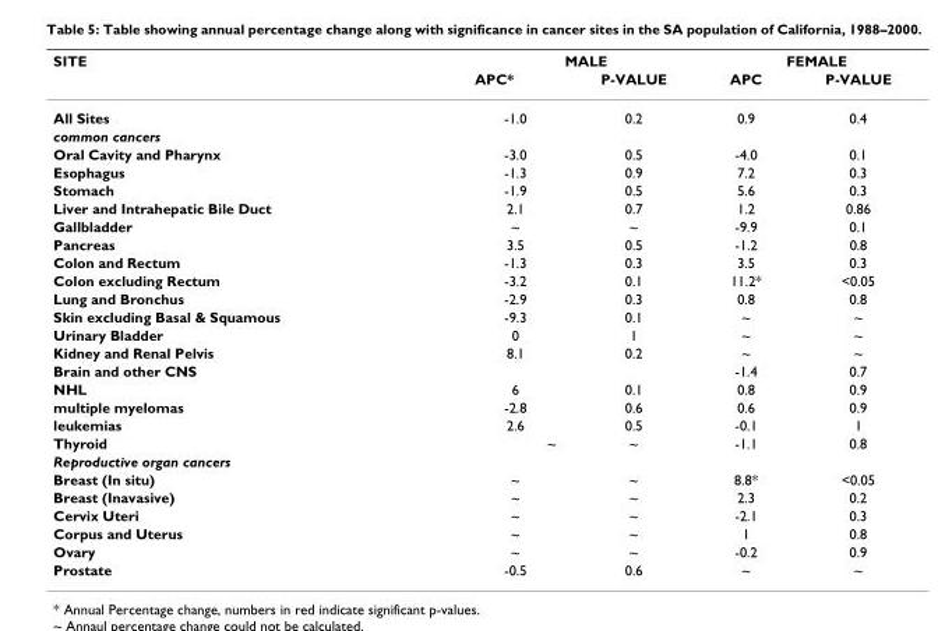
<table><thead><tr><td rowspan="2">SITE</td><td colspan="2">MALE</td><td colspan="2">FEMALE</td></tr><tr><td>APC*</td><td>P-VALUE</td><td>APC</td><td>P-VALUE</td></tr></thead><tbody><tr><td>All Sites</td><td>-1.0</td><td>0.2</td><td>0.9</td><td>0.4</td></tr><tr><td colspan="5">common cancers</td></tr><tr><td>Oral Cavity and Pharynx</td><td>-3.0</td><td>0.5</td><td>-4.0</td><td>0.1</td></tr><tr><td>Esophagus</td><td>-1.3</td><td>0.9</td><td>7.2</td><td>0.3</td></tr><tr><td>Stomach</td><td>-1.9</td><td>0.5</td><td>5.6</td><td>0.3</td></tr><tr><td>Liver and Intrahepatic Bile Duct</td><td>2.1</td><td>0.7</td><td>1.2</td><td>0.86</td></tr><tr><td>Gallbladder</td><td>~</td><td>~</td><td>-9.9</td><td>0.1</td></tr><tr><td>Pancreas</td><td>3.5</td><td>0.5</td><td>-1.2</td><td>0.8</td></tr><tr><td>Colon and Rectum</td><td>-1.3</td><td>0.3</td><td>3.5</td><td>0.3</td></tr><tr><td>Colon excluding Rectum</td><td>-3.2</td><td>0.1</td><td>11.2*</td><td>&lt;0.05</td></tr><tr><td>Lung and Bronchus</td><td>-2.9</td><td>0.3</td><td>0.8</td><td>0.8</td></tr><tr><td>Skin excluding Basal &amp; Squamous</td><td>-9.3</td><td>0.1</td><td>~</td><td>~</td></tr><tr><td>Urinary Bladder</td><td>0</td><td>1</td><td>~</td><td>~</td></tr><tr><td>Kidney and Renal Pelvis</td><td>8.1</td><td>0.2</td><td>~</td><td>~</td></tr><tr><td>Brain and other CNS</td><td></td><td></td><td>-1.4</td><td>0.7</td></tr><tr><td>NHL</td><td>6</td><td>0.1</td><td>0.8</td><td>0.9</td></tr><tr><td>multiple myelomas</td><td>-2.8</td><td>0.6</td><td>0.6</td><td>0.9</td></tr><tr><td>leukemias</td><td>2.6</td><td>0.5</td><td>-0.1</td><td>1</td></tr><tr><td>Thyroid</td><td>~</td><td>~</td><td>-1.1</td><td>0.8</td></tr><tr><td colspan="5">Reproductive organ cancers</td></tr><tr><td>Breast (In situ)</td><td>~</td><td>~</td><td>8.8*</td><td>&lt;0.05</td></tr><tr><td>Breast (Inavasive)</td><td>~</td><td>~</td><td>2.3</td><td>0.2</td></tr><tr><td>Cervix Uteri</td><td>~</td><td>~</td><td>-2.1</td><td>0.3</td></tr><tr><td>Corpus and Uterus</td><td>~</td><td>~</td><td>1</td><td>0.8</td></tr><tr><td>Ovary</td><td>~</td><td>~</td><td>-0.2</td><td>0.9</td></tr><tr><td>Prostate</td><td>-0.5</td><td>0.6</td><td>~</td><td>~</td></tr></tbody></table>